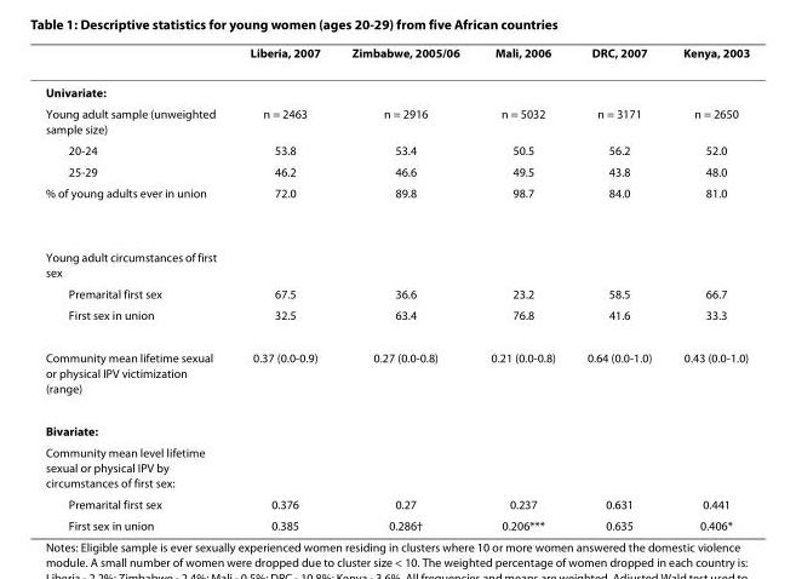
<table><thead><tr><td></td><td>Liberia, 2007</td><td>Zimbabwe, 2005/06</td><td>Mali, 2006</td><td>DRC, 2007</td><td>Kenya, 2003</td></tr></thead><tbody><tr><td colspan="6">Univariate:</td></tr><tr><td>Young adult sample (unweighted sample size)</td><td>n = 2463</td><td>n = 2916</td><td>n = 5032</td><td>n = 3171</td><td>n = 2650</td></tr><tr><td>20-24</td><td>53.8</td><td>53.4</td><td>50.5</td><td>56.2</td><td>52.0</td></tr><tr><td>25-29</td><td>46.2</td><td>46.6</td><td>49.5</td><td>43.8</td><td>48.0</td></tr><tr><td>% of young adults ever in union</td><td>72.0</td><td>89.8</td><td>98.7</td><td>84.0</td><td>81.0</td></tr><tr><td colspan="6">Young adult circumstances of first sex</td></tr><tr><td>Premarital first sex</td><td>67.5</td><td>36.6</td><td>23.2</td><td>58.5</td><td>66.7</td></tr><tr><td>First sex in union</td><td>32.5</td><td>63.4</td><td>76.8</td><td>41.6</td><td>33.3</td></tr><tr><td>Community mean lifetime sexual or physical IPV victimization (range)</td><td>0.37 (0.0-0.9)</td><td>0.27 (0.0-0.8)</td><td>0.21 (0.0-0.8)</td><td>0.64 (0.0-1.0)</td><td>0.43 (0.0-1.0)</td></tr><tr><td colspan="6">Bivariate:</td></tr><tr><td colspan="6">Community mean level lifetime sexual or physical IPV by circumstances of first sex:</td></tr><tr><td>Premarital first sex</td><td>0.376</td><td>0.27</td><td>0.237</td><td>0.631</td><td>0.441</td></tr><tr><td>First sex in union</td><td>0.385</td><td>0.286†</td><td>0.206***</td><td>0.635</td><td>0.406*</td></tr></tbody></table>